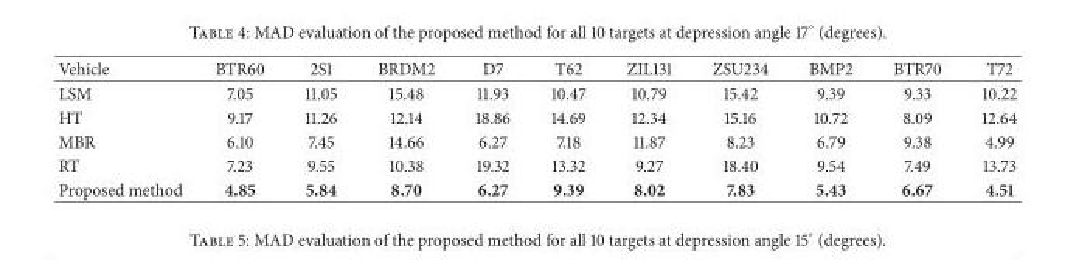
<table><thead><tr><td>Vehicle</td><td>BTR60</td><td>2S1</td><td>BRDM2</td><td>D7</td><td>T62</td><td>ZIL131</td><td>ZSU234</td><td>BMP2</td><td>BTR70</td><td>T72</td></tr></thead><tbody><tr><td>LSM</td><td>7.05</td><td>11.05</td><td>15.48</td><td>11.93</td><td>10.47</td><td>10.79</td><td>15.42</td><td>9.39</td><td>9.33</td><td>10.22</td></tr><tr><td>HT</td><td>9.17</td><td>11.26</td><td>12.14</td><td>18.86</td><td>14.69</td><td>12.34</td><td>15.16</td><td>10.72</td><td>8.09</td><td>12.64</td></tr><tr><td>MBR</td><td>6.10</td><td>7.45</td><td>14.66</td><td>6.27</td><td>7.18</td><td>11.87</td><td>8.23</td><td>6.79</td><td>9.38</td><td>4.99</td></tr><tr><td>RT</td><td>7.23</td><td>9.55</td><td>10.38</td><td>19.32</td><td>13.32</td><td>9.27</td><td>18.40</td><td>9.54</td><td>7.49</td><td>13.73</td></tr><tr><td>Proposed method</td><td>4.85</td><td>5.84</td><td>8.70</td><td>6.27</td><td>9.39</td><td>8.02</td><td>7.83</td><td>5.43</td><td>6.67</td><td>4.51</td></tr></tbody></table>